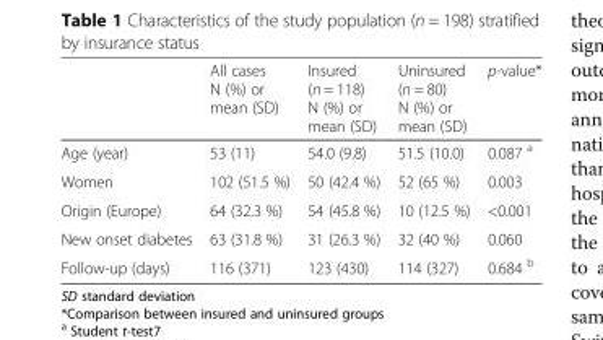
<table><thead><tr><td></td><td>All cases N (%) or mean (SD)</td><td>Insured (n = 118) N (%) or mean (SD)</td><td>Uninsured (n = 80) N (%) or mean (SD)</td><td>p-value*</td></tr></thead><tbody><tr><td>Age (year)</td><td>53 (11)</td><td>54.0 (9.8)</td><td>51.5 (10.0)</td><td>0.087 <sup>a</sup></td></tr><tr><td>Women</td><td>102 (51.5 %)</td><td>50 (42.4 %)</td><td>52 (65 %)</td><td>0.003</td></tr><tr><td>Origin (Europe)</td><td>64 (32.3 %)</td><td>54 (45.8 %)</td><td>10 (12.5 %)</td><td>&lt;0.001</td></tr><tr><td>New onset diabetes</td><td>63 (31.8 %)</td><td>31 (26.3 %)</td><td>32 (40 %)</td><td>0.060</td></tr><tr><td>Follow-up (days)</td><td>116 (371)</td><td>123 (430)</td><td>114 (327)</td><td>0.684 <sup>b</sup></td></tr></tbody></table>